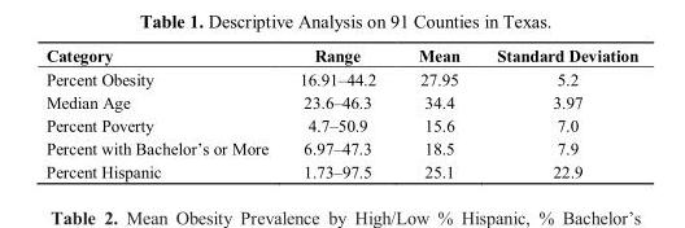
<table><thead><tr><td>Category</td><td>Range</td><td>Mean</td><td>Standard Deviation</td></tr></thead><tbody><tr><td>Percent Obesity</td><td>16.91–44.2</td><td>27.95</td><td>5.2</td></tr><tr><td>Median Age</td><td>23.6–46.3</td><td>34.4</td><td>3.97</td></tr><tr><td>Percent Poverty</td><td>4.7–50.9</td><td>15.6</td><td>7.0</td></tr><tr><td>Percent with Bachelor’s or More</td><td>6.97–47.3</td><td>18.5</td><td>7.9</td></tr><tr><td>Percent Hispanic</td><td>1.73–97.5</td><td>25.1</td><td>22.9</td></tr></tbody></table>